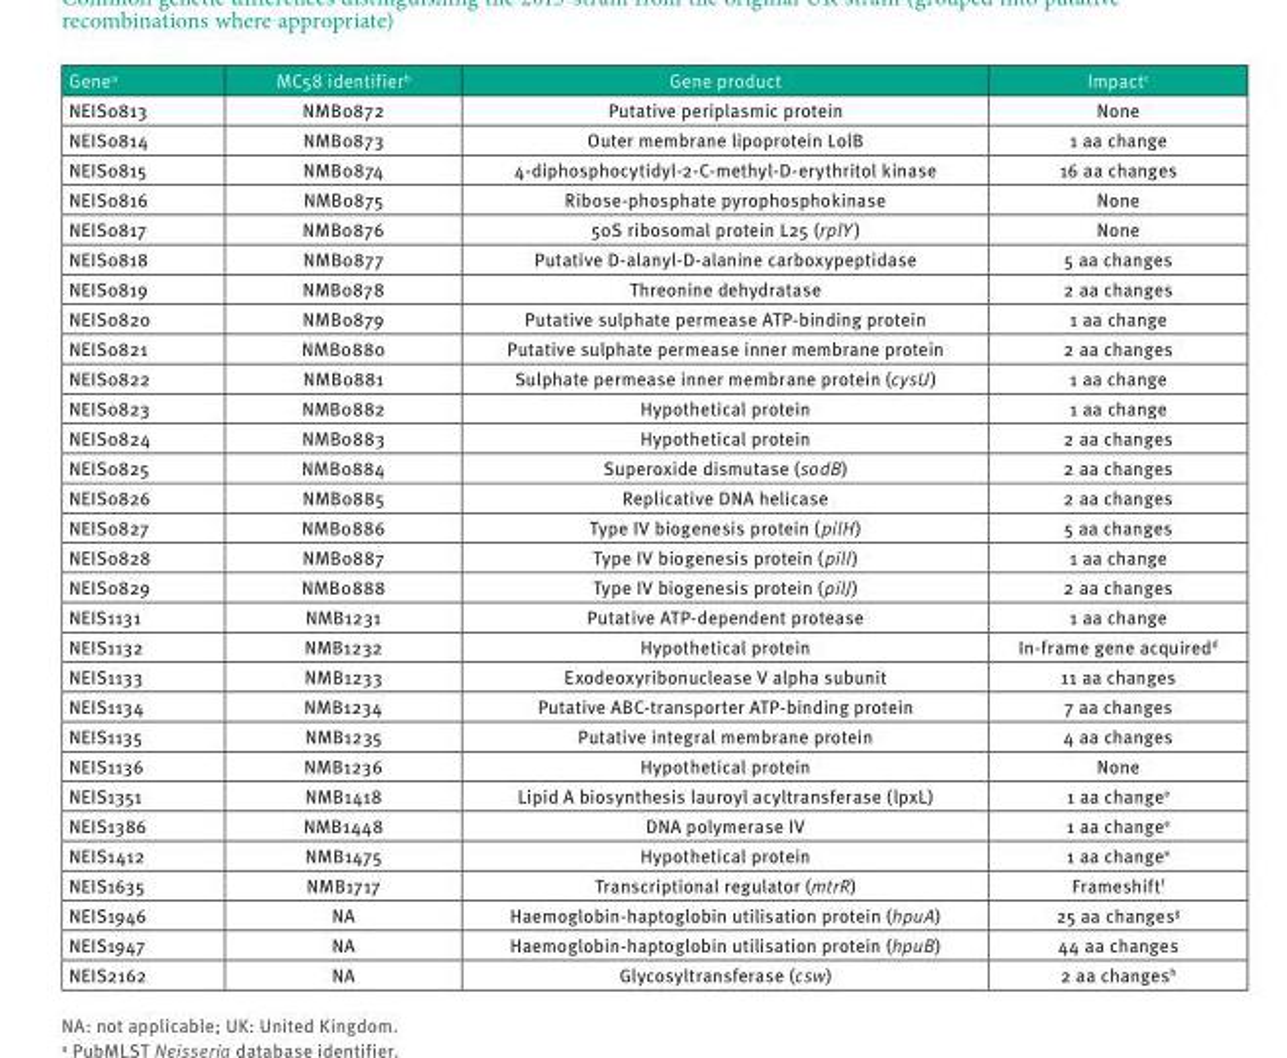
<table><thead><tr><td>Gene<sup>a</sup></td><td>MC58 identifier<sup>b</sup></td><td>Gene product</td><td>Impact<sup>c</sup></td></tr></thead><tbody><tr><td>NEIS0813</td><td>NMB0872</td><td>Putative periplasmic protein</td><td>None</td></tr><tr><td>NEIS0814</td><td>NMB0873</td><td>Outer membrane lipoprotein LolB</td><td>1 aa change</td></tr><tr><td>NEIS0815</td><td>NMB0874</td><td>4-diphosphocytidyl-2-C-methyl-D-erythritol kinase</td><td>16 aa changes</td></tr><tr><td>NEIS0816</td><td>NMB0875</td><td>Ribose-phosphate pyrophosphokinase</td><td>None</td></tr><tr><td>NEIS0817</td><td>NMB0876</td><td>50S ribosomal protein L25 (rplY)</td><td>None</td></tr><tr><td>NEIS0818</td><td>NMB0877</td><td>Putative D-alanyl-D-alanine carboxypeptidase</td><td>5 aa changes</td></tr><tr><td>NEIS0819</td><td>NMB0878</td><td>Threonine dehydratase</td><td>2 aa changes</td></tr><tr><td>NEIS0820</td><td>NMB0879</td><td>Putative sulphate permease ATP-binding protein</td><td>1 aa change</td></tr><tr><td>NEIS0821</td><td>NMB0880</td><td>Putative sulphate permease inner membrane protein</td><td>2 aa changes</td></tr><tr><td>NEIS0822</td><td>NMB0881</td><td>Sulphate permease inner membrane protein (cysU)</td><td>1 aa change</td></tr><tr><td>NEIS0823</td><td>NMB0882</td><td>Hypothetical protein</td><td>1 aa change</td></tr><tr><td>NEIS0824</td><td>NMB0883</td><td>Hypothetical protein</td><td>2 aa changes</td></tr><tr><td>NEIS0825</td><td>NMB0884</td><td>Superoxide dismutase (sodB)</td><td>2 aa changes</td></tr><tr><td>NEIS0826</td><td>NMB0885</td><td>Replicative DNA helicase</td><td>2 aa changes</td></tr><tr><td>NEIS0827</td><td>NMB0886</td><td>Type IV biogenesis protein (pilH)</td><td>5 aa changes</td></tr><tr><td>NEIS0828</td><td>NMB0887</td><td>Type IV biogenesis protein (pilI)</td><td>1 aa change</td></tr><tr><td>NEIS0829</td><td>NMB0888</td><td>Type IV biogenesis protein (pilJ)</td><td>2 aa changes</td></tr><tr><td>NEIS1131</td><td>NMB1231</td><td>Putative ATP-dependent protease</td><td>1 aa change</td></tr><tr><td>NEIS1132</td><td>NMB1232</td><td>Hypothetical protein</td><td>In-frame gene acquired<sup>d</sup></td></tr><tr><td>NEIS1133</td><td>NMB1233</td><td>Exodeoxyribonuclease V alpha subunit</td><td>11 aa changes</td></tr><tr><td>NEIS1134</td><td>NMB1234</td><td>Putative ABC-transporter ATP-binding protein</td><td>7 aa changes</td></tr><tr><td>NEIS1135</td><td>NMB1235</td><td>Putative integral membrane protein</td><td>4 aa changes</td></tr><tr><td>NEIS1136</td><td>NMB1236</td><td>Hypothetical protein</td><td>None</td></tr><tr><td>NEIS1351</td><td>NMB1418</td><td>Lipid A biosynthesis lauroyl acyltransferase (lpxL)</td><td>1 aa change<sup>e</sup></td></tr><tr><td>NEIS1386</td><td>NMB1448</td><td>DNA polymerase IV</td><td>1 aa change<sup>e</sup></td></tr><tr><td>NEIS1412</td><td>NMB1475</td><td>Hypothetical protein</td><td>1 aa change<sup>e</sup></td></tr><tr><td>NEIS1635</td><td>NMB1717</td><td>Transcriptional regulator (mtrR)</td><td>Frameshift<sup>f</sup></td></tr><tr><td>NEIS1946</td><td>NA</td><td>Haemoglobin-haptoglobin utilisation protein (hpuA)</td><td>25 aa changes<sup>g</sup></td></tr><tr><td>NEIS1947</td><td>NA</td><td>Haemoglobin-haptoglobin utilisation protein (hpuB)</td><td>44 aa changes</td></tr><tr><td>NEIS2162</td><td>NA</td><td>Glycosyltransferase (csw)</td><td>2 aa changes<sup>h</sup></td></tr></tbody></table>